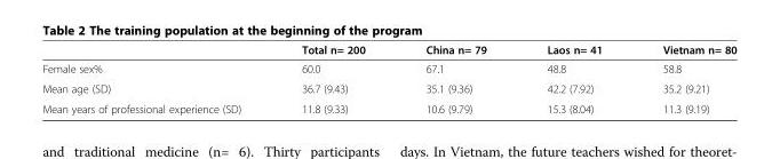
<table><thead><tr><td></td><td>Total n= 200</td><td>China n= 79</td><td>Laos n= 41</td><td>Vietnam n= 80</td></tr></thead><tbody><tr><td>Female sex%</td><td>60.0</td><td>67.1</td><td>48.8</td><td>58.8</td></tr><tr><td>Mean age (SD)</td><td>36.7 (9.43)</td><td>35.1 (9.36)</td><td>42.2 (7.92)</td><td>35.2 (9.21)</td></tr><tr><td>Mean years of professional experience (SD)</td><td>11.8 (9.33)</td><td>10.6 (9.79)</td><td>15.3 (8.04)</td><td>11.3 (9.19)</td></tr></tbody></table>